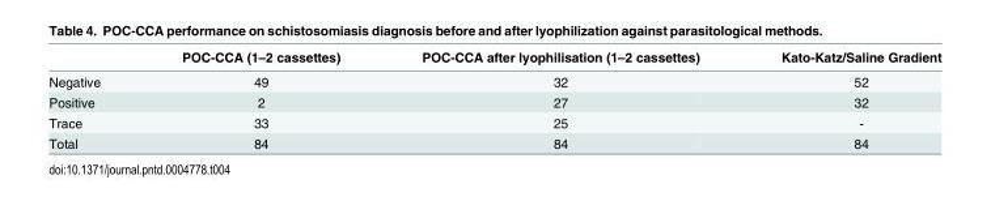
<table><thead><tr><td></td><td>POC-CCA (1–2 cassettes)</td><td>POC-CCA after lyophilisation (1–2 cassettes)</td><td>Kato-Katz/Saline Gradient</td></tr></thead><tbody><tr><td>Negative</td><td>49</td><td>32</td><td>52</td></tr><tr><td>Positive</td><td>2</td><td>27</td><td>32</td></tr><tr><td>Trace</td><td>33</td><td>25</td><td>-</td></tr><tr><td>Total</td><td>84</td><td>84</td><td>84</td></tr></tbody></table>